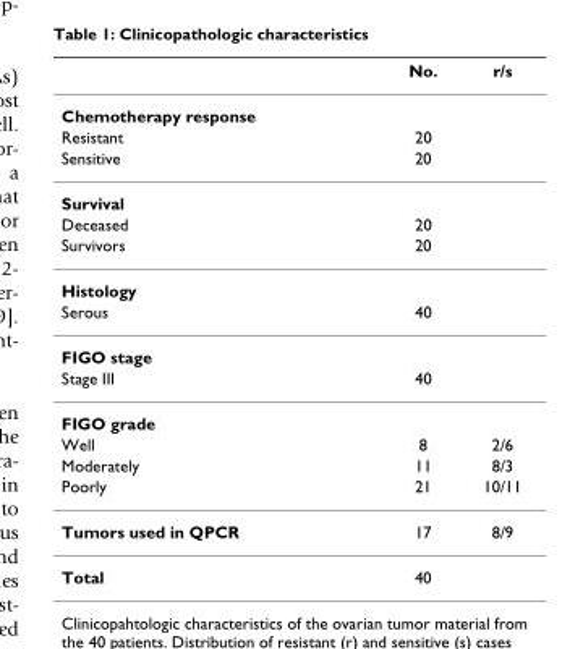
<table><thead><tr><td></td><td>No.</td><td>r/s</td></tr></thead><tbody><tr><td colspan="3">Chemotherapy response</td></tr><tr><td>Resistant</td><td>20</td><td></td></tr><tr><td>Sensitive</td><td>20</td><td></td></tr><tr><td colspan="3">Survival</td></tr><tr><td>Deceased</td><td>20</td><td></td></tr><tr><td>Survivors</td><td>20</td><td></td></tr><tr><td colspan="3">Histology</td></tr><tr><td>Serous</td><td>40</td><td></td></tr><tr><td colspan="3">FIGO stage</td></tr><tr><td>Stage III</td><td>40</td><td></td></tr><tr><td colspan="3">FIGO grade</td></tr><tr><td>Well</td><td>8</td><td>2/6</td></tr><tr><td>Moderately</td><td>11</td><td>8/3</td></tr><tr><td>Poorly</td><td>21</td><td>10/11</td></tr><tr><td>Tumors used in QPCR</td><td>17</td><td>8/9</td></tr><tr><td>Total</td><td>40</td><td></td></tr></tbody></table>